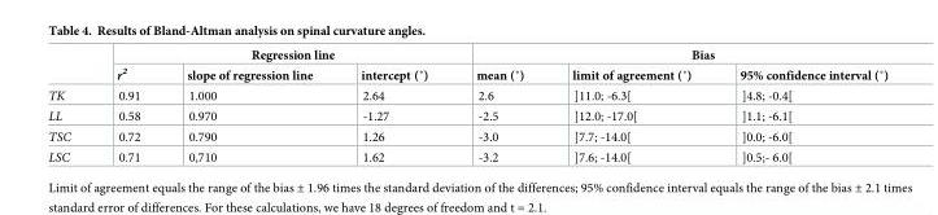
<table><thead><tr><td rowspan="2"></td><td colspan="3">Regression line</td><td colspan="3">Bias</td></tr><tr><td>r<sup>2</sup></td><td>slope of regression line</td><td>intercept (˚)</td><td>mean (˚)</td><td>limit of agreement (˚)</td><td>95% confidence interval (˚)</td></tr></thead><tbody><tr><td>TK</td><td>0.91</td><td>1.000</td><td>2.64</td><td>2.6</td><td>]11.0; -6.3[</td><td>]4.8; -0.4[</td></tr><tr><td>LL</td><td>0.58</td><td>0.970</td><td>-1.27</td><td>-2.5</td><td>]12.0; -17.0[</td><td>]1.1; -6.1[</td></tr><tr><td>TSC</td><td>0.72</td><td>0.790</td><td>1.26</td><td>-3.0</td><td>]7.7; -14.0[</td><td>]0.0; -6.0[</td></tr><tr><td>LSC</td><td>0.71</td><td>0,710</td><td>1.62</td><td>-3.2</td><td>]7.6; -14.0[</td><td>]0.5;- 6.0[</td></tr></tbody></table>